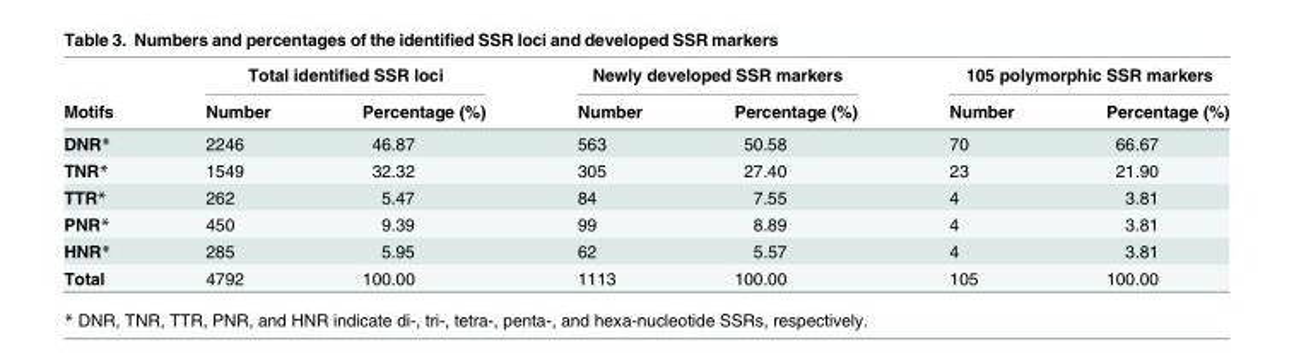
<table><thead><tr><td rowspan="2">Motifs</td><td colspan="2">Total identified SSR loci</td><td colspan="2">Newly developed SSR markers</td><td colspan="2">105 polymorphic SSR markers</td></tr><tr><td>Number</td><td>Percentage (%)</td><td>Number</td><td>Percentage (%)</td><td>Number</td><td>Percentage (%)</td></tr></thead><tbody><tr><td>DNR*</td><td>2246</td><td>46.87</td><td>563</td><td>50.58</td><td>70</td><td>66.67</td></tr><tr><td>TNR*</td><td>1549</td><td>32.32</td><td>305</td><td>27.40</td><td>23</td><td>21.90</td></tr><tr><td>TTR*</td><td>262</td><td>5.47</td><td>84</td><td>7.55</td><td>4</td><td>3.81</td></tr><tr><td>PNR*</td><td>450</td><td>9.39</td><td>99</td><td>8.89</td><td>4</td><td>3.81</td></tr><tr><td>HNR*</td><td>285</td><td>5.95</td><td>62</td><td>5.57</td><td>4</td><td>3.81</td></tr><tr><td>Total</td><td>4792</td><td>100.00</td><td>1113</td><td>100.00</td><td>105</td><td>100.00</td></tr></tbody></table>